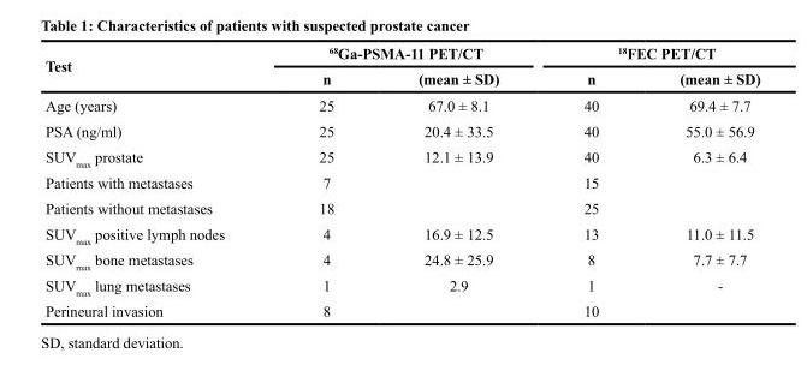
<table><thead><tr><td rowspan="2">Test</td><td colspan="2"><sup>68</sup>Ga-PSMA-11 PET/CT</td><td colspan="2"><sup>18</sup>FEC PET/CT</td></tr><tr><td>n</td><td>(mean ± SD)</td><td>n</td><td>(mean ± SD)</td></tr></thead><tbody><tr><td>Age (years)</td><td>25</td><td>67.0 ± 8.1</td><td>40</td><td>69.4 ± 7.7</td></tr><tr><td>PSA (ng/ml)</td><td>25</td><td>20.4 ± 33.5</td><td>40</td><td>55.0 ± 56.9</td></tr><tr><td>SUV<sub>max</sub> prostate</td><td>25</td><td>12.1 ± 13.9</td><td>40</td><td>6.3 ± 6.4</td></tr><tr><td>Patients with metastases</td><td>7</td><td></td><td>15</td><td></td></tr><tr><td>Patients without metastases</td><td>18</td><td></td><td>25</td><td></td></tr><tr><td>SUV<sub>max</sub> positive lymph nodes</td><td>4</td><td>16.9 ± 12.5</td><td>13</td><td>11.0 ± 11.5</td></tr><tr><td>SUV<sub>max</sub> bone metastases</td><td>4</td><td>24.8 ± 25.9</td><td>8</td><td>7.7 ± 7.7</td></tr><tr><td>SUV<sub>max</sub> lung metastases</td><td>1</td><td>2.9</td><td>1</td><td>-</td></tr><tr><td>Perineural invasion</td><td>8</td><td></td><td>10</td><td></td></tr></tbody></table>